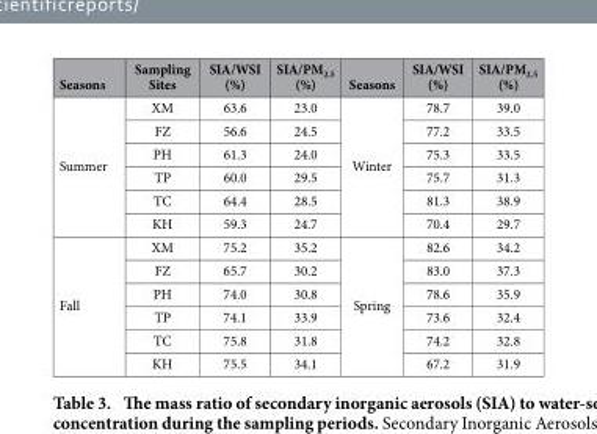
<table><thead><tr><td>Seasons</td><td>Sampling Sites</td><td>SIA/WSI (%)</td><td>SIA/PM<sub>2.5</sub> (%)</td><td>Seasons</td><td>SIA/WSI (%)</td><td>SIA/PM<sub>2.5</sub> (%)</td></tr></thead><tbody><tr><td rowspan="6">Summer</td><td>XM</td><td>63.6</td><td>23.0</td><td rowspan="6">Winter</td><td>78.7</td><td>39.0</td></tr><tr><td>FZ</td><td>56.6</td><td>24.5</td><td>77.2</td><td>33.5</td></tr><tr><td>PH</td><td>61.3</td><td>24.0</td><td>75.3</td><td>33.5</td></tr><tr><td>TP</td><td>60.0</td><td>29.5</td><td>75.7</td><td>31.3</td></tr><tr><td>TC</td><td>64.4</td><td>28.5</td><td>81.3</td><td>38.9</td></tr><tr><td>KH</td><td>59.3</td><td>24.7</td><td>70.4</td><td>29.7</td></tr><tr><td rowspan="6">Fall</td><td>XM</td><td>75.2</td><td>35.2</td><td rowspan="6">Spring</td><td>82.6</td><td>34.2</td></tr><tr><td>FZ</td><td>65.7</td><td>30.2</td><td>83.0</td><td>37.3</td></tr><tr><td>PH</td><td>74.0</td><td>30.8</td><td>78.6</td><td>35.9</td></tr><tr><td>TP</td><td>74.1</td><td>33.9</td><td>73.6</td><td>32.4</td></tr><tr><td>TC</td><td>75.8</td><td>31.8</td><td>74.2</td><td>32.8</td></tr><tr><td>KH</td><td>75.5</td><td>34.1</td><td>67.2</td><td>31.9</td></tr></tbody></table>